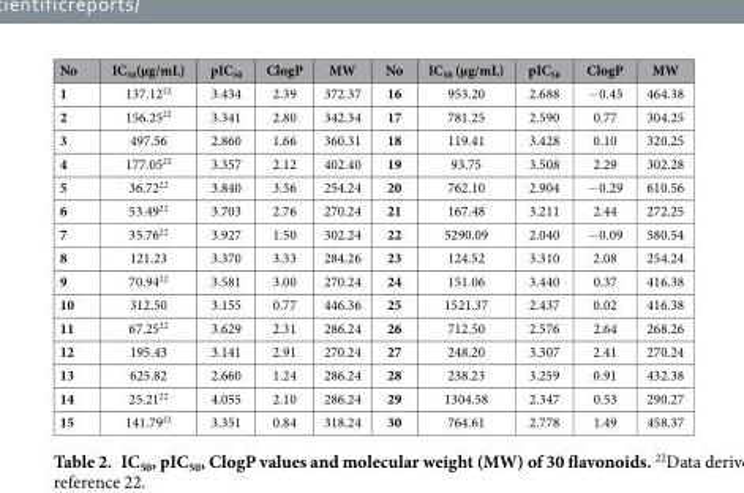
<table><thead><tr><td>No</td><td>IC<sub>50</sub>(μg/mL)</td><td>pIC<sub>50</sub></td><td>ClogP</td><td>MW</td><td>No</td><td>IC<sub>50</sub> (μg/mL)</td><td>pIC<sub>50</sub></td><td>ClogP</td><td>MW</td></tr></thead><tbody><tr><td>1</td><td>137.12<sup>22</sup></td><td>3.434</td><td>2.39</td><td>372.37</td><td>16</td><td>953.20</td><td>2.688</td><td>− 0.45</td><td>464.38</td></tr><tr><td>2</td><td>156.25<sup>22</sup></td><td>3.341</td><td>2.80</td><td>342.34</td><td>17</td><td>781.25</td><td>2.590</td><td>0.77</td><td>304.25</td></tr><tr><td>3</td><td>497.56</td><td>2.860</td><td>1.66</td><td>360.31</td><td>18</td><td>119.41</td><td>3.428</td><td>0.10</td><td>320.25</td></tr><tr><td>4</td><td>177.05<sup>22</sup></td><td>3.357</td><td>2.12</td><td>402.40</td><td>19</td><td>93.75</td><td>3.508</td><td>2.29</td><td>302.28</td></tr><tr><td>5</td><td>36.72<sup>22</sup></td><td>3.840</td><td>3.56</td><td>254.24</td><td>20</td><td>762.10</td><td>2.904</td><td>− 0.29</td><td>610.56</td></tr><tr><td>6</td><td>53.49<sup>22</sup></td><td>3.703</td><td>2.76</td><td>270.24</td><td>21</td><td>167.48</td><td>3.211</td><td>2.44</td><td>272.25</td></tr><tr><td>7</td><td>35.76<sup>22</sup></td><td>3.927</td><td>1.50</td><td>302.24</td><td>22</td><td>5290.09</td><td>2.040</td><td>− 0.09</td><td>580.54</td></tr><tr><td>8</td><td>121.23</td><td>3.370</td><td>3.33</td><td>284.26</td><td>23</td><td>124.52</td><td>3.310</td><td>2.08</td><td>254.24</td></tr><tr><td>9</td><td>70.94<sup>22</sup></td><td>3.581</td><td>3.00</td><td>270.24</td><td>24</td><td>151.06</td><td>3.440</td><td>0.37</td><td>416.38</td></tr><tr><td>10</td><td>312.50</td><td>3.155</td><td>0.77</td><td>446.36</td><td>25</td><td>1521.37</td><td>2.437</td><td>0.02</td><td>416.38</td></tr><tr><td>11</td><td>67.25<sup>22</sup></td><td>3.629</td><td>2.31</td><td>286.24</td><td>26</td><td>712.50</td><td>2.576</td><td>2.64</td><td>268.26</td></tr><tr><td>12</td><td>195.43</td><td>3.141</td><td>2.91</td><td>270.24</td><td>27</td><td>248.20</td><td>3.307</td><td>2.41</td><td>270.24</td></tr><tr><td>13</td><td>625.82</td><td>2.660</td><td>1.24</td><td>286.24</td><td>28</td><td>238.23</td><td>3.259</td><td>0.91</td><td>432.38</td></tr><tr><td>14</td><td>25.21<sup>22</sup></td><td>4.055</td><td>2.10</td><td>286.24</td><td>29</td><td>1304.58</td><td>2.347</td><td>0.53</td><td>290.27</td></tr><tr><td>15</td><td>141.79<sup>22</sup></td><td>3.351</td><td>0.84</td><td>318.24</td><td>30</td><td>764.61</td><td>2.778</td><td>1.49</td><td>458.37</td></tr></tbody></table>